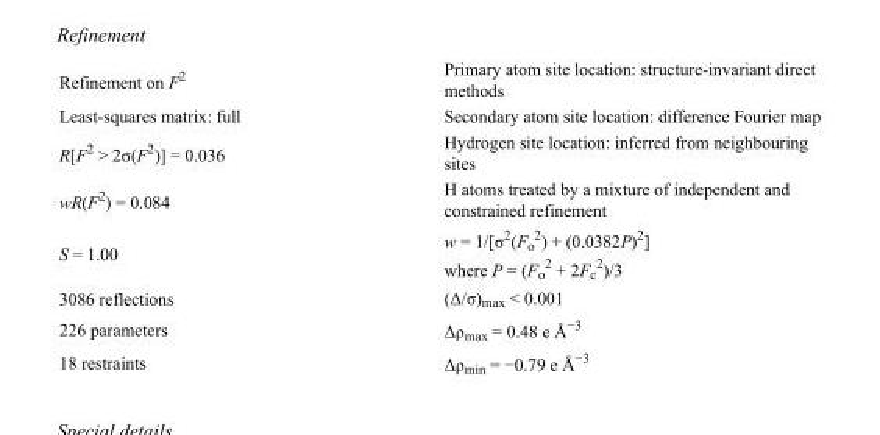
<table><tbody><tr><td>Refinement on F<sup>2</sup></td><td>Primary atom site location: structure-invariant direct methods</td></tr><tr><td>Least-squares matrix: full</td><td>Secondary atom site location: difference Fourier map</td></tr><tr><td>R[F<sup>2</sup> &gt; 2σ(F<sup>2</sup>)] = 0.036</td><td>Hydrogen site location: inferred from neighbouring sites</td></tr><tr><td>wR(F<sup>2</sup>) = 0.084</td><td>H atoms treated by a mixture of independent and constrained refinement</td></tr><tr><td>S = 1.00</td><td>w = 1/[σ<sup>2</sup>(F<sub>o</sub> <sup>2</sup>) + (0.0382P)<sup>2</sup>] where P = (F<sub>o</sub> <sup>2</sup> + 2F<sub>c</sub> <sup>2</sup>)/3</td></tr><tr><td>3086 reflections</td><td>(Δ/σ)<sub>max</sub> &lt; 0.001</td></tr><tr><td>226 parameters</td><td>Δρ<sub>max</sub> = 0.48 e Å<sup>−3</sup></td></tr><tr><td>18 restraints</td><td>Δρ<sub>min</sub> = −0.79 e Å<sup>−3</sup></td></tr></tbody></table>